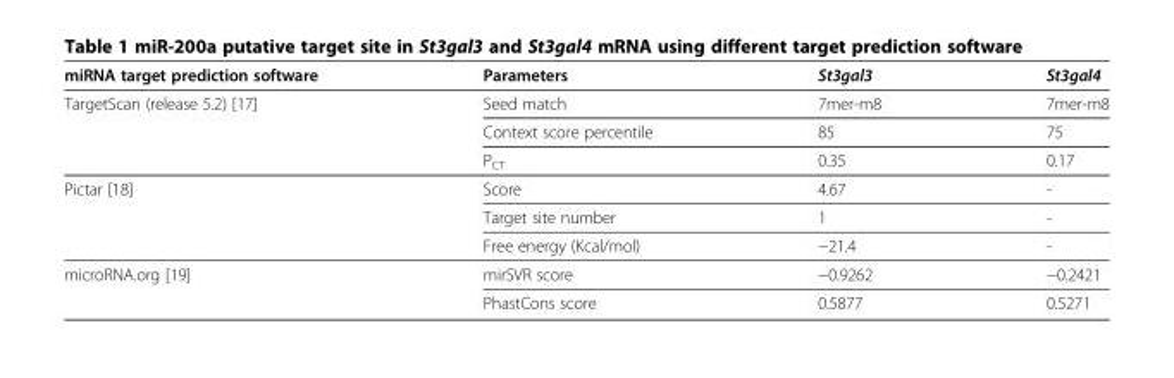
<table><thead><tr><td>miRNA target prediction software</td><td>Parameters</td><td>St3gal3</td><td>St3gal4</td></tr></thead><tbody><tr><td rowspan="3">TargetScan (release 5.2) [17]</td><td>Seed match</td><td>7mer-m8</td><td>7mer-m8</td></tr><tr><td>Context score percentile</td><td>85</td><td>75</td></tr><tr><td>P<sub>CT</sub></td><td>0.35</td><td>0.17</td></tr><tr><td rowspan="3">Pictar [18]</td><td>Score</td><td>4.67</td><td>-</td></tr><tr><td>Target site number</td><td>1</td><td>-</td></tr><tr><td>Free energy (Kcal/mol)</td><td>−21.4</td><td>-</td></tr><tr><td rowspan="2">microRNA.org [19]</td><td>mirSVR score</td><td>−0.9262</td><td>−0.2421</td></tr><tr><td>PhastCons score</td><td>0.5877</td><td>0.5271</td></tr></tbody></table>